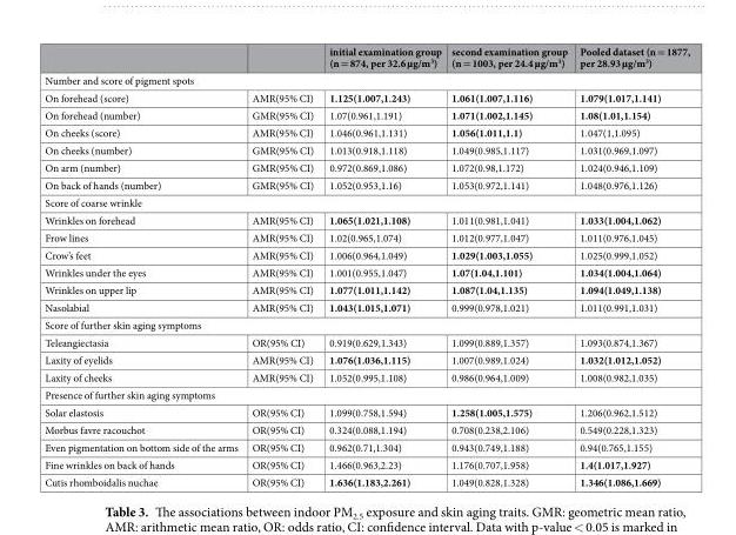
<table><thead><tr><td></td><td></td><td>initial examination group (n = 874, per 32.6 µg/m<sup>3</sup>)</td><td>second examination group (n = 1003, per 24.4 µg/m<sup>3</sup>)</td><td>Pooled dataset (n = 1877, per 28.93 µg/m<sup>3</sup>)</td></tr></thead><tbody><tr><td colspan="5">Number and score of pigment spots</td></tr><tr><td>On forehead (score)</td><td>AMR(95% CI)</td><td>1.125(1.007,1.243)</td><td>1.061(1.007,1.116)</td><td>1.079(1.017,1.141)</td></tr><tr><td>On forehead (number)</td><td>GMR(95% CI)</td><td>1.07(0.961,1.191)</td><td>1.071(1.002,1.145)</td><td>1.08(1.01,1.154)</td></tr><tr><td>On cheeks (score)</td><td>AMR(95% CI)</td><td>1.046(0.961,1.131)</td><td>1.056(1.011,1.1)</td><td>1.047(1,1.095)</td></tr><tr><td>On cheeks (number)</td><td>GMR(95% CI)</td><td>1.013(0.918,1.118)</td><td>1.049(0.985,1.117)</td><td>1.031(0.969,1.097)</td></tr><tr><td>On arm (number)</td><td>GMR(95% CI)</td><td>0.972(0.869,1.086)</td><td>1.072(0.98,1.172)</td><td>1.024(0.946,1.109)</td></tr><tr><td>On back of hands (number)</td><td>GMR(95% CI)</td><td>1.052(0.953,1.16)</td><td>1.053(0.972,1.141)</td><td>1.048(0.976,1.126)</td></tr><tr><td colspan="5">Score of coarse wrinkle</td></tr><tr><td>Wrinkles on forehead</td><td>AMR(95% CI)</td><td>1.065(1.021,1.108)</td><td>1.011(0.981,1.041)</td><td>1.033(1.004,1.062)</td></tr><tr><td>Frow lines</td><td>AMR(95% CI)</td><td>1.02(0.965,1.074)</td><td>1.012(0.977,1.047)</td><td>1.011(0.976,1.045)</td></tr><tr><td>Crow’s feet</td><td>AMR(95% CI)</td><td>1.006(0.964,1.049)</td><td>1.029(1.003,1.055)</td><td>1.025(0.999,1.052)</td></tr><tr><td>Wrinkles under the eyes</td><td>AMR(95% CI)</td><td>1.001(0.955,1.047)</td><td>1.07(1.04,1.101)</td><td>1.034(1.004,1.064)</td></tr><tr><td>Wrinkles on upper lip</td><td>AMR(95% CI)</td><td>1.077(1.011,1.142)</td><td>1.087(1.04,1.135)</td><td>1.094(1.049,1.138)</td></tr><tr><td>Nasolabial</td><td>AMR(95% CI)</td><td>1.043(1.015,1.071)</td><td>0.999(0.978,1.021)</td><td>1.011(0.991,1.031)</td></tr><tr><td colspan="5">Score of further skin aging symptoms</td></tr><tr><td>Teleangiectasia</td><td>OR(95% CI)</td><td>0.919(0.629,1.343)</td><td>1.099(0.889,1.357)</td><td>1.093(0.874,1.367)</td></tr><tr><td>Laxity of eyelids</td><td>AMR(95% CI)</td><td>1.076(1.036,1.115)</td><td>1.007(0.989,1.024)</td><td>1.032(1.012,1.052)</td></tr><tr><td>Laxity of cheeks</td><td>AMR(95% CI)</td><td>1.052(0.995,1.108)</td><td>0.986(0.964,1.009)</td><td>1.008(0.982,1.035)</td></tr><tr><td colspan="5">Presence of further skin aging symptoms</td></tr><tr><td>Solar elastosis</td><td>OR(95% CI)</td><td>1.099(0.758,1.594)</td><td>1.258(1.005,1.575)</td><td>1.206(0.962,1.512)</td></tr><tr><td>Morbus favre racouchot</td><td>OR(95% CI)</td><td>0.324(0.088,1.194)</td><td>0.708(0.238,2.106)</td><td>0.549(0.228,1.323)</td></tr><tr><td>Even pigmentation on bottom side of the arms</td><td>OR(95% CI)</td><td>0.962(0.71,1.304)</td><td>0.943(0.749,1.188)</td><td>0.94(0.765,1.155)</td></tr><tr><td>Fine wrinkles on back of hands</td><td>OR(95% CI)</td><td>1.466(0.963,2.23)</td><td>1.176(0.707,1.958)</td><td>1.4(1.017,1.927)</td></tr><tr><td>Cutis rhomboidalis nuchae</td><td>OR(95% CI)</td><td>1.636(1.183,2.261)</td><td>1.049(0.828,1.328)</td><td>1.346(1.086,1.669)</td></tr></tbody></table>